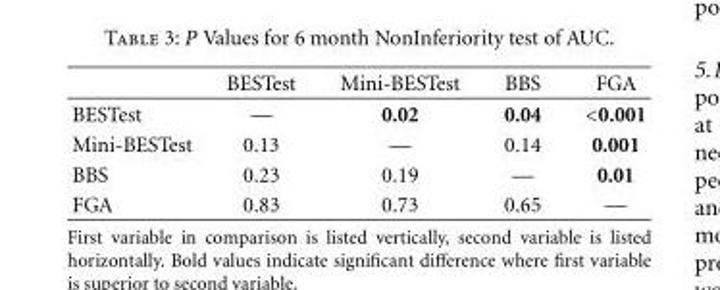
<table><thead><tr><td></td><td>BESTest</td><td>Mini-BESTest</td><td>BBS</td><td>FGA</td></tr></thead><tbody><tr><td>BESTest</td><td>—</td><td>0.02</td><td>0.04</td><td>&lt;0.001</td></tr><tr><td>Mini-BESTest</td><td>0.13</td><td>—</td><td>0.14</td><td>0.001</td></tr><tr><td>BBS</td><td>0.23</td><td>0.19</td><td>—</td><td>0.01</td></tr><tr><td>FGA</td><td>0.83</td><td>0.73</td><td>0.65</td><td>—</td></tr></tbody></table>